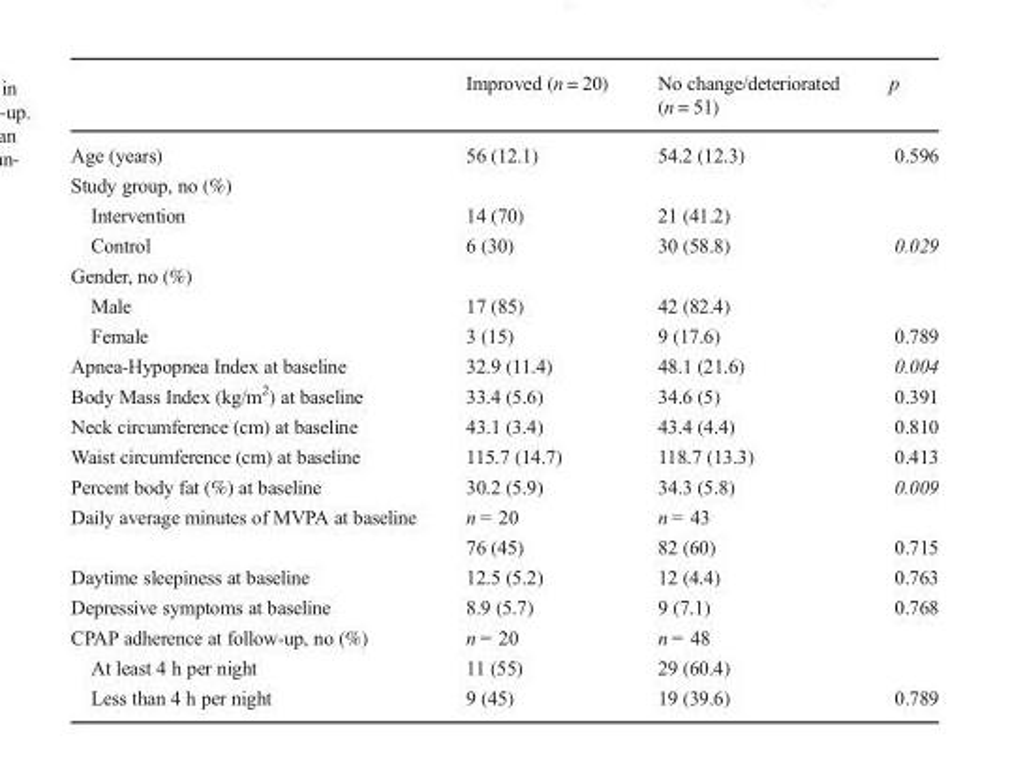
<table><thead><tr><td></td><td>Improved (n = 20)</td><td>No change/deteriorated (n = 51)</td><td>p</td></tr></thead><tbody><tr><td>Age (years)</td><td>56 (12.1)</td><td>54.2 (12.3)</td><td>0.596</td></tr><tr><td colspan="4">Study group, no (%)</td></tr><tr><td>Intervention</td><td>14 (70)</td><td>21 (41.2)</td><td></td></tr><tr><td>Control</td><td>6 (30)</td><td>30 (58.8)</td><td>0.029</td></tr><tr><td colspan="4">Gender, no (%)</td></tr><tr><td>Male</td><td>17 (85)</td><td>42 (82.4)</td><td></td></tr><tr><td>Female</td><td>3 (15)</td><td>9 (17.6)</td><td>0.789</td></tr><tr><td>Apnea-Hypopnea Index at baseline</td><td>32.9 (11.4)</td><td>48.1 (21.6)</td><td>0.004</td></tr><tr><td>Body Mass Index (kg/m<sup>2</sup>) at baseline</td><td>33.4 (5.6)</td><td>34.6 (5)</td><td>0.391</td></tr><tr><td>Neck circumference (cm) at baseline</td><td>43.1 (3.4)</td><td>43.4 (4.4)</td><td>0.810</td></tr><tr><td>Waist circumference (cm) at baseline</td><td>115.7 (14.7)</td><td>118.7 (13.3)</td><td>0.413</td></tr><tr><td>Percent body fat (%) at baseline</td><td>30.2 (5.9)</td><td>34.3 (5.8)</td><td>0.009</td></tr><tr><td rowspan="2">Daily average minutes of MVPA at baseline</td><td>n = 20</td><td>n = 43</td><td></td></tr><tr><td>76 (45)</td><td>82 (60)</td><td>0.715</td></tr><tr><td>Daytime sleepiness at baseline</td><td>12.5 (5.2)</td><td>12 (4.4)</td><td>0.763</td></tr><tr><td>Depressive symptoms at baseline</td><td>8.9 (5.7)</td><td>9 (7.1)</td><td>0.768</td></tr><tr><td>CPAP adherence at follow-up, no (%)</td><td>n = 20</td><td>n = 48</td><td></td></tr><tr><td>At least 4 h per night</td><td>11 (55)</td><td>29 (60.4)</td><td></td></tr><tr><td>Less than 4 h per night</td><td>9 (45)</td><td>19 (39.6)</td><td>0.789</td></tr></tbody></table>